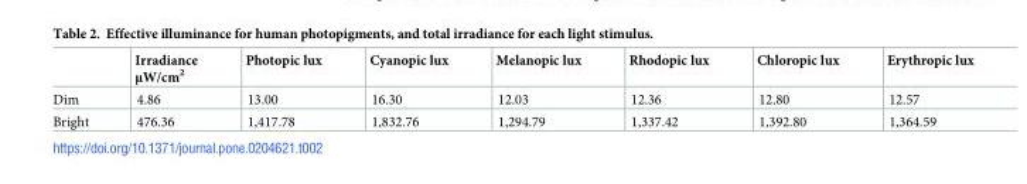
<table><thead><tr><td></td><td>Irradiance μW/cm<sup>2</sup></td><td>Photopic lux</td><td>Cyanopic lux</td><td>Melanopic lux</td><td>Rhodopic lux</td><td>Chloropic lux</td><td>Erythropic lux</td></tr></thead><tbody><tr><td>Dim</td><td>4.86</td><td>13.00</td><td>16.30</td><td>12.03</td><td>12.36</td><td>12.80</td><td>12.57</td></tr><tr><td>Bright</td><td>476.36</td><td>1,417.78</td><td>1,832.76</td><td>1,294.79</td><td>1,337.42</td><td>1,392.80</td><td>1,364.59</td></tr></tbody></table>